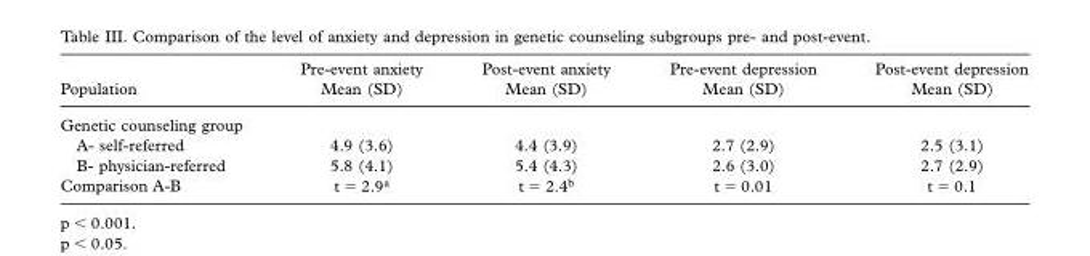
<table><thead><tr><td>Population</td><td>Pre-event anxiety Mean (SD)</td><td>Post-event anxiety Mean (SD)</td><td>Pre-event depression Mean (SD)</td><td>Post-event depression Mean (SD)</td></tr></thead><tbody><tr><td colspan="5">Genetic counseling group</td></tr><tr><td>A - self-referred</td><td>4.9 (3.6)</td><td>4.4 (3.9)</td><td>2.7 (2.9)</td><td>2.5 (3.1)</td></tr><tr><td>B- physician-referred</td><td>5.8 (4.1)</td><td>5.4 (4.3)</td><td>2.6 (3.0)</td><td>2.7 (2.9)</td></tr><tr><td>Comparison A-B</td><td>t = 2.9 <sup>a</sup></td><td>t = 2.4 <sup>b</sup></td><td>t = 0.01</td><td>t = 0.1</td></tr></tbody></table>